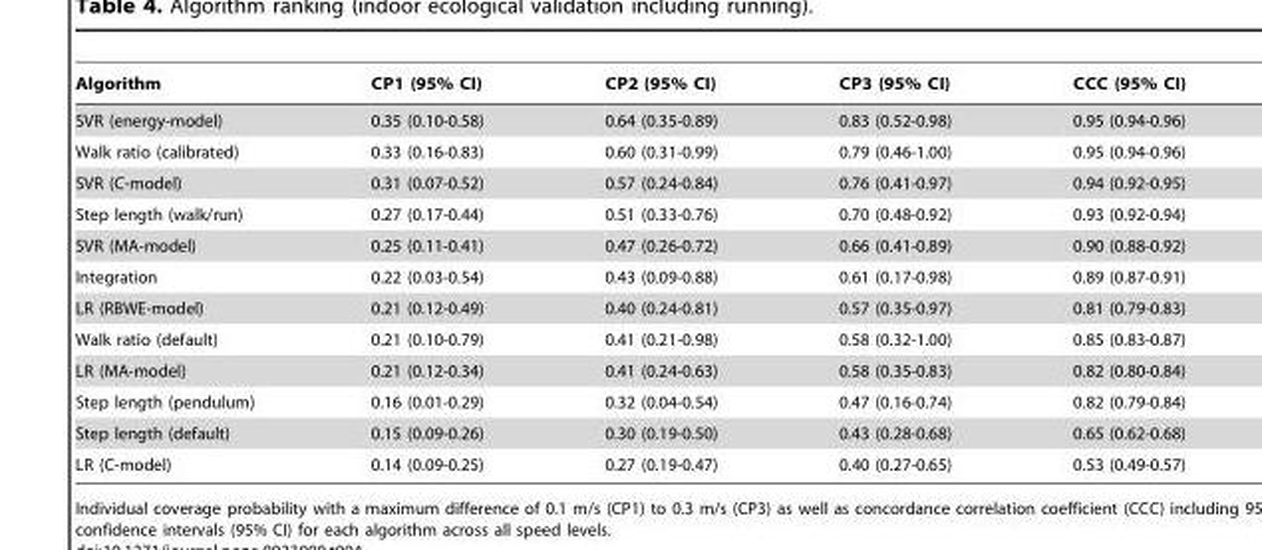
<table><thead><tr><td>Algorithm</td><td>CP1 (95% CI)</td><td>CP2 (95% CI)</td><td>CP3 (95% CI)</td><td>CCC (95% CI)</td></tr></thead><tbody><tr><td>SVR (energy-model)</td><td>0.35 (0.10-0.58)</td><td>0.64 (0.35-0.89)</td><td>0.83 (0.52-0.98)</td><td>0.95 (0.94-0.96)</td></tr><tr><td>Walk ratio (calibrated)</td><td>0.33 (0.16-0.83)</td><td>0.60 (0.31-0.99)</td><td>0.79 (0.46-1.00)</td><td>0.95 (0.94-0.96)</td></tr><tr><td>SVR (C-model)</td><td>0.31 (0.07-0.52)</td><td>0.57 (0.24-0.84)</td><td>0.76 (0.41-0.97)</td><td>0.94 (0.92-0.95)</td></tr><tr><td>Step length (walk/run)</td><td>0.27 (0.17-0.44)</td><td>0.51 (0.33-0.76)</td><td>0.70 (0.48-0.92)</td><td>0.93 (0.92-0.94)</td></tr><tr><td>SVR (MA-model)</td><td>0.25 (0.11-0.41)</td><td>0.47 (0.26-0.72)</td><td>0.66 (0.41-0.89)</td><td>0.90 (0.88-0.92)</td></tr><tr><td>Integration</td><td>0.22 (0.03-0.54)</td><td>0.43 (0.09-0.88)</td><td>0.61 (0.17-0.98)</td><td>0.89 (0.87-0.91)</td></tr><tr><td>LR (RBWE-model)</td><td>0.21 (0.12-0.49)</td><td>0.40 (0.24-0.81)</td><td>0.57 (0.35-0.97)</td><td>0.81 (0.79-0.83)</td></tr><tr><td>Walk ratio (default)</td><td>0.21 (0.10-0.79)</td><td>0.41 (0.21-0.98)</td><td>0.58 (0.32-1.00)</td><td>0.85 (0.83-0.87)</td></tr><tr><td>LR (MA-model)</td><td>0.21 (0.12-0.34)</td><td>0.41 (0.24-0.63)</td><td>0.58 (0.35-0.83)</td><td>0.82 (0.80-0.84)</td></tr><tr><td>Step length (pendulum)</td><td>0.16 (0.01-0.29)</td><td>0.32 (0.04-0.54)</td><td>0.47 (0.16-0.74)</td><td>0.82 (0.79-0.84)</td></tr><tr><td>Step length (default)</td><td>0.15 (0.09-0.26)</td><td>0.30 (0.19-0.50)</td><td>0.43 (0.28-0.68)</td><td>0.65 (0.62-0.68)</td></tr><tr><td>LR (C-model)</td><td>0.14 (0.09-0.25)</td><td>0.27 (0.19-0.47)</td><td>0.40 (0.27-0.65)</td><td>0.53 (0.49-0.57)</td></tr></tbody></table>